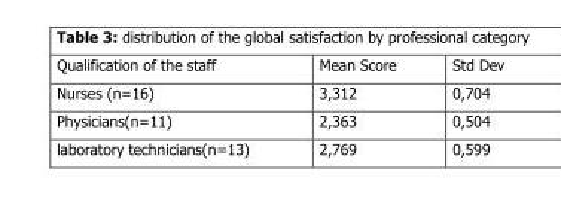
<table><thead><tr><td>Qualification of the staff</td><td>Mean Score</td><td>Std Dev</td></tr></thead><tbody><tr><td>Nurses (n=16)</td><td>3,312</td><td>0,704</td></tr><tr><td>Physicians(n=11)</td><td>2,363</td><td>0,504</td></tr><tr><td>laboratory technicians(n=13)</td><td>2,769</td><td>0,599</td></tr></tbody></table>